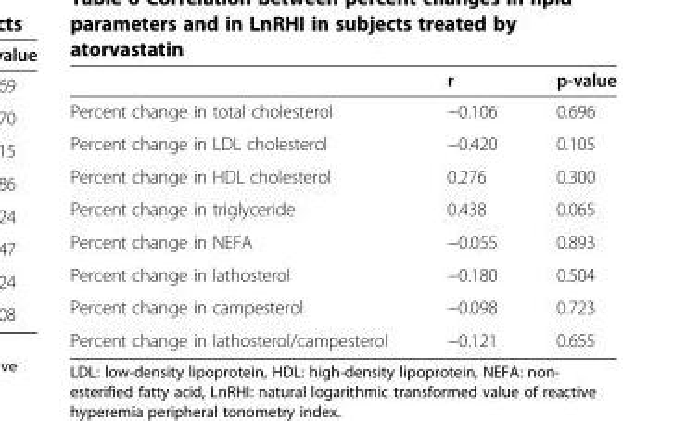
<table><thead><tr><td></td><td>r</td><td>p-value</td></tr></thead><tbody><tr><td>Percent change in total cholesterol</td><td>−0.106</td><td>0.696</td></tr><tr><td>Percent change in LDL cholesterol</td><td>−0.420</td><td>0.105</td></tr><tr><td>Percent change in HDL cholesterol</td><td>0.276</td><td>0.300</td></tr><tr><td>Percent change in triglyceride</td><td>0.438</td><td>0.065</td></tr><tr><td>Percent change in NEFA</td><td>−0.055</td><td>0.893</td></tr><tr><td>Percent change in lathosterol</td><td>−0.180</td><td>0.504</td></tr><tr><td>Percent change in campesterol</td><td>−0.098</td><td>0.723</td></tr><tr><td>Percent change in lathosterol/campesterol</td><td>−0.121</td><td>0.655</td></tr></tbody></table>